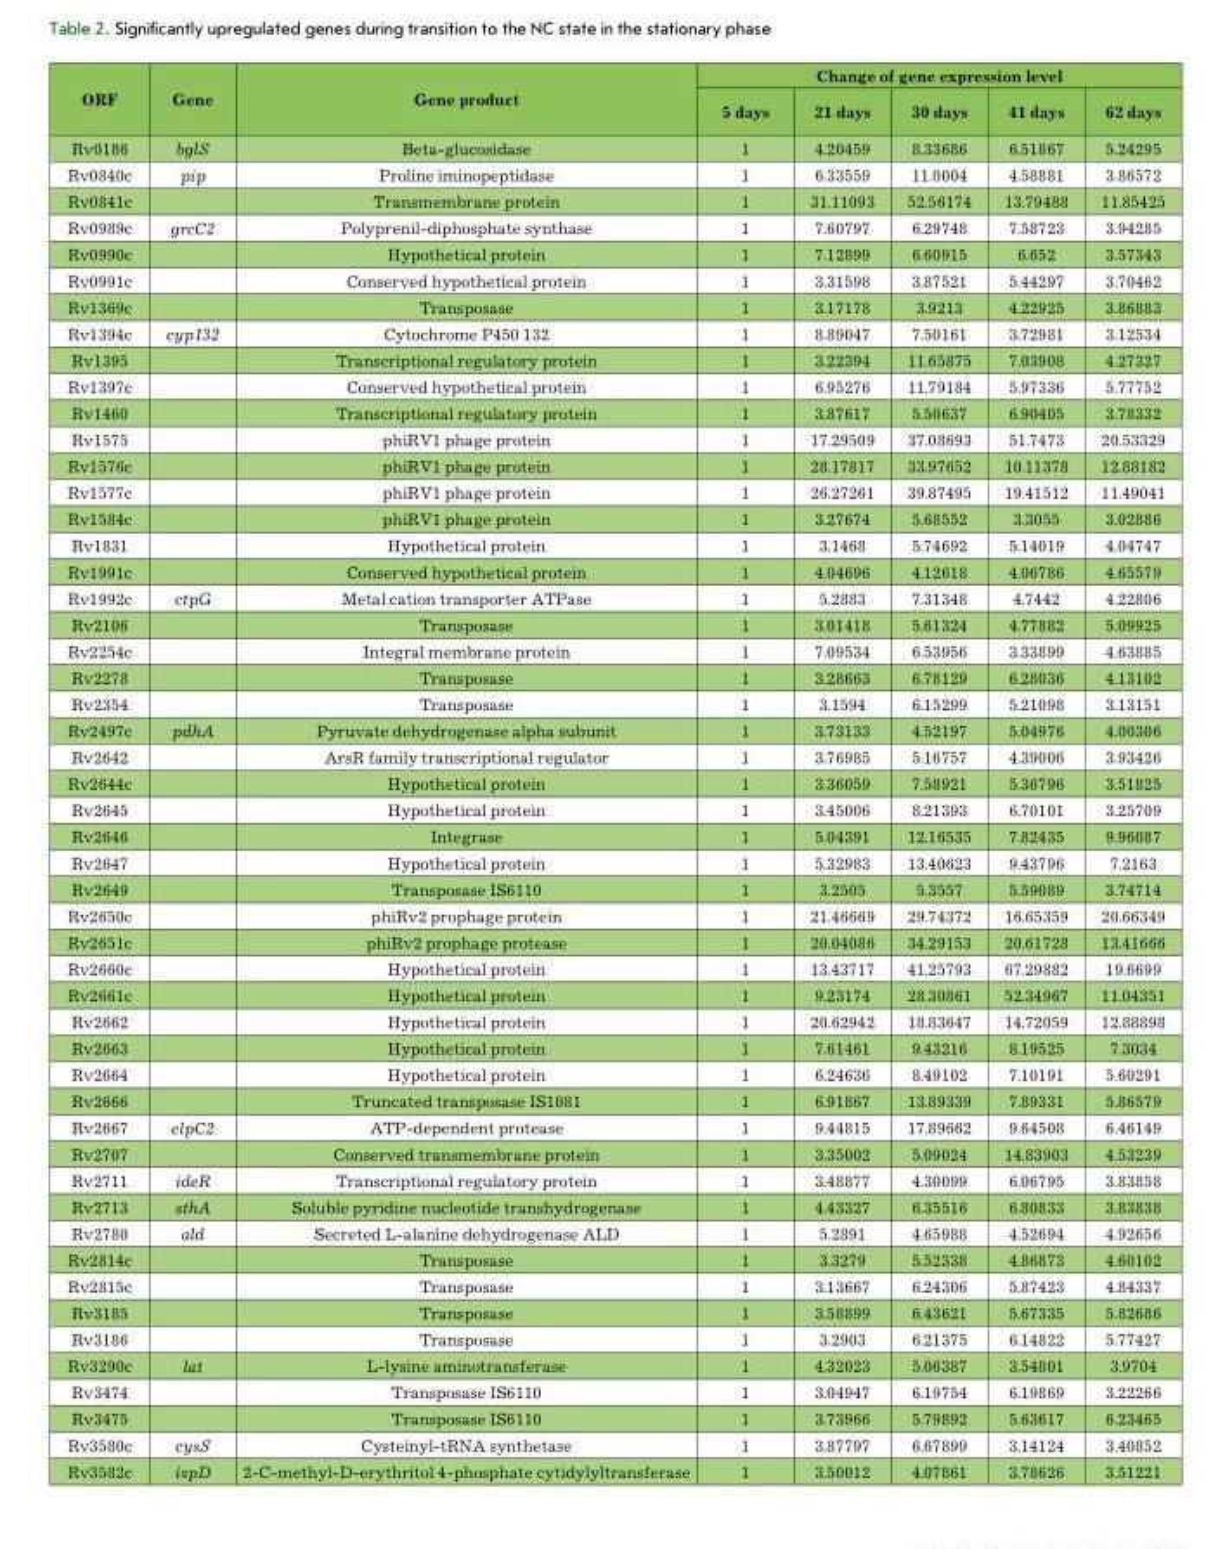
<table><thead><tr><td rowspan="2">ORF</td><td rowspan="2">Gene</td><td rowspan="2">Gene product</td><td colspan="5">Change of gene expression level</td></tr><tr><td>5 days</td><td>21 days</td><td>30 days</td><td>41 days</td><td>62 days</td></tr></thead><tbody><tr><td>rv0186</td><td>bglS</td><td>Beta-glucosidase</td><td>1</td><td>4.20459</td><td>8.33686</td><td>6.51867</td><td>5.24295</td></tr><tr><td>rv0840c</td><td>pip</td><td>Proline iminopeptidase</td><td>1</td><td>6.33559</td><td>11.0004</td><td>4.58881</td><td>3.86572</td></tr><tr><td>rv0841c</td><td></td><td>transmembrane protein</td><td>1</td><td>31.11093</td><td>52.56174</td><td>13.79488</td><td>11.85425</td></tr><tr><td>rv0989c</td><td>grcC2</td><td>Polyprenil-diphosphate synthase</td><td>1</td><td>7.60797</td><td>6.29748</td><td>7.58723</td><td>3.94285</td></tr><tr><td>rv0990c</td><td></td><td>Hypothetical protein</td><td>1</td><td>7.12899</td><td>6.60915</td><td>6.652</td><td>3.57343</td></tr><tr><td>rv0991c</td><td></td><td>conserved hypothetical protein</td><td>1</td><td>3.31598</td><td>3.87521</td><td>5.44297</td><td>3.70462</td></tr><tr><td>rv1369c</td><td></td><td>transposase</td><td>1</td><td>3.17178</td><td>3.9213</td><td>4.22925</td><td>3.86883</td></tr><tr><td>rv1394c</td><td>cyp132</td><td>cytochrome P450 132</td><td>1</td><td>8.89047</td><td>7.50161</td><td>3.72981</td><td>3.12534</td></tr><tr><td>rv1395</td><td></td><td>transcriptional regulatory protein</td><td>1</td><td>3.22394</td><td>11.65875</td><td>7.03908</td><td>4.27327</td></tr><tr><td>rv1397c</td><td></td><td>conserved hypothetical protein</td><td>1</td><td>6.95276</td><td>11.79184</td><td>5.97336</td><td>5.77752</td></tr><tr><td>rv1460</td><td></td><td>transcriptional regulatory protein</td><td>1</td><td>3.87617</td><td>5.50637</td><td>6.90405</td><td>3.78332</td></tr><tr><td>rv1575</td><td></td><td>phirV1 phage protein</td><td>1</td><td>17.29509</td><td>37.08693</td><td>51.7473</td><td>20.53329</td></tr><tr><td>rv1576c</td><td></td><td>phirV1 phage protein</td><td>1</td><td>28.17817</td><td>33.97652</td><td>10.11378</td><td>12.88182</td></tr><tr><td>rv1577c</td><td></td><td>phirV1 phage protein</td><td>1</td><td>26.27261</td><td>39.87495</td><td>19.41512</td><td>11.49041</td></tr><tr><td>rv1584c</td><td></td><td>phirV1 phage protein</td><td>1</td><td>3.27674</td><td>5.68552</td><td>3.3055</td><td>3.02886</td></tr><tr><td>rv1831</td><td></td><td>Hypothetical protein</td><td>1</td><td>3.1468</td><td>5.74692</td><td>5.14019</td><td>4.04747</td></tr><tr><td>rv1991c</td><td></td><td>conserved hypothetical protein</td><td>1</td><td>4.04696</td><td>4.12618</td><td>4.06786</td><td>4.65579</td></tr><tr><td>rv1992c</td><td>ctpG</td><td>Metal cation transporter AtPase</td><td>1</td><td>5.2883</td><td>7.31348</td><td>4.7442</td><td>4.22806</td></tr><tr><td>rv2106</td><td></td><td>transposase</td><td>1</td><td>3.01418</td><td>5.61324</td><td>4.77882</td><td>5.09925</td></tr><tr><td>rv2254c</td><td></td><td>Integral membrane protein</td><td>1</td><td>7.09534</td><td>6.53956</td><td>3.33899</td><td>4.63885</td></tr><tr><td>rv2278</td><td></td><td>transposase</td><td>1</td><td>3.28663</td><td>6.78129</td><td>6.28036</td><td>4.13102</td></tr><tr><td>rv2354</td><td></td><td>transposase</td><td>1</td><td>3.1594</td><td>6.15299</td><td>5.21098</td><td>3.13151</td></tr><tr><td>rv2497c</td><td>pdhA</td><td>Pyruvate dehydrogenase alpha subunit</td><td>1</td><td>3.73133</td><td>4.52197</td><td>5.04976</td><td>4.00306</td></tr><tr><td>rv2642</td><td></td><td>Arsr family transcriptional regulator</td><td>1</td><td>3.76985</td><td>5.16757</td><td>4.39006</td><td>3.93426</td></tr><tr><td>rv2644c</td><td></td><td>Hypothetical protein</td><td>1</td><td>3.36059</td><td>7.58921</td><td>5.36796</td><td>3.51825</td></tr><tr><td>rv2645</td><td></td><td>Hypothetical protein</td><td>1</td><td>3.45006</td><td>8.21393</td><td>6.70101</td><td>3.25709</td></tr><tr><td>rv2646</td><td></td><td>Integrase</td><td>1</td><td>5.04391</td><td>12.16535</td><td>7.82435</td><td>9.96087</td></tr><tr><td>rv2647</td><td></td><td>Hypothetical protein</td><td>1</td><td>5.32983</td><td>13.40623</td><td>9.43796</td><td>7.2163</td></tr><tr><td>rv2649</td><td></td><td>transposase IS6110</td><td>1</td><td>3.2505</td><td>5.3557</td><td>5.59089</td><td>3.74714</td></tr><tr><td>rv2650c</td><td></td><td>phirv2 prophage protein</td><td>1</td><td>21.46669</td><td>29.74372</td><td>16.65359</td><td>20.66349</td></tr><tr><td>rv2651c</td><td></td><td>phirv2 prophage protease</td><td>1</td><td>20.04086</td><td>34.29153</td><td>20.61728</td><td>13.41666</td></tr><tr><td>rv2660c</td><td></td><td>Hypothetical protein</td><td>1</td><td>13.43717</td><td>41.25793</td><td>67.29882</td><td>19.6699</td></tr><tr><td>rv2661c</td><td></td><td>Hypothetical protein</td><td>1</td><td>9.23174</td><td>28.30861</td><td>52.34967</td><td>11.04351</td></tr><tr><td>rv2662</td><td></td><td>Hypothetical protein</td><td>1</td><td>20.62942</td><td>18.83647</td><td>14.72059</td><td>12.88898</td></tr><tr><td>rv2663</td><td></td><td>Hypothetical protein</td><td>1</td><td>7.61461</td><td>9.43216</td><td>8.19525</td><td>7.3034</td></tr><tr><td>rv2664</td><td></td><td>Hypothetical protein</td><td>1</td><td>6.24636</td><td>8.49102</td><td>7.10191</td><td>5.60291</td></tr><tr><td>rv2666</td><td></td><td>truncated transposase IS1081</td><td>1</td><td>6.91867</td><td>13.89339</td><td>7.89331</td><td>5.86579</td></tr><tr><td>rv2667</td><td>clpC2</td><td>AtP-dependent protease</td><td>1</td><td>9.44815</td><td>17.89662</td><td>9.64508</td><td>6.46149</td></tr><tr><td>rv2707</td><td></td><td>conserved transmembrane protein</td><td>1</td><td>3.35002</td><td>5.09024</td><td>14.83903</td><td>4.53239</td></tr><tr><td>rv2711</td><td>ideR</td><td>transcriptional regulatory protein</td><td>1</td><td>3.48877</td><td>4.30099</td><td>6.06795</td><td>3.83858</td></tr><tr><td>rv2713</td><td>sthA</td><td>Soluble pyridine nucleotide transhydrogenase</td><td>1</td><td>4.43327</td><td>6.35516</td><td>6.80833</td><td>3.83838</td></tr><tr><td>rv2780</td><td>ald</td><td>Secreted L-alanine dehydrogenase ALD</td><td>1</td><td>5.2891</td><td>4.65988</td><td>4.52694</td><td>4.92656</td></tr><tr><td>rv2814c</td><td></td><td>transposase</td><td>1</td><td>3.3279</td><td>5.52338</td><td>4.86873</td><td>4.60102</td></tr><tr><td>rv2815c</td><td></td><td>transposase</td><td>1</td><td>3.13667</td><td>6.24306</td><td>5.87423</td><td>4.84337</td></tr><tr><td>rv3185</td><td></td><td>transposase</td><td>1</td><td>3.58899</td><td>6.43621</td><td>5.67335</td><td>5.82686</td></tr><tr><td>rv3186</td><td></td><td>transposase</td><td>1</td><td>3.2903</td><td>6.21375</td><td>6.14822</td><td>5.77427</td></tr><tr><td>rv3290c</td><td>lat</td><td>L-lysine aminotransferase</td><td>1</td><td>4.32023</td><td>5.06387</td><td>3.54801</td><td>3.9704</td></tr><tr><td>rv3474</td><td></td><td>transposase IS6110</td><td>1</td><td>3.04947</td><td>6.19754</td><td>6.19869</td><td>3.22266</td></tr><tr><td>rv3475</td><td></td><td>transposase IS6110</td><td>1</td><td>3.73966</td><td>5.79892</td><td>5.63617</td><td>6.23465</td></tr><tr><td>rv3580c</td><td>cysS</td><td>cysteinyl-trnA synthetase</td><td>1</td><td>3.87797</td><td>6.67899</td><td>3.14124</td><td>3.40852</td></tr><tr><td>rv3582c</td><td>ispD</td><td>2-c-methyl-D-erythritol 4-phosphate cytidylyltransferase</td><td>1</td><td>3.50012</td><td>4.07861</td><td>3.78626</td><td>3.51221</td></tr></tbody></table>